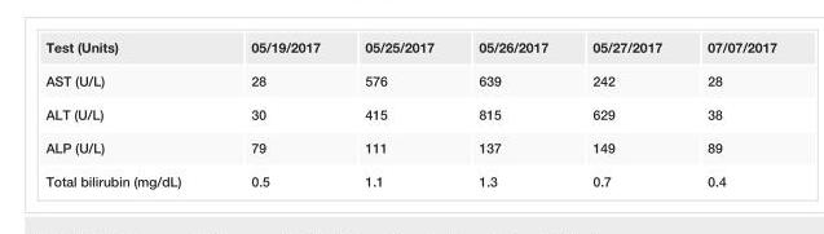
<table><tbody><tr><td>Test (Units)</td><td>05/19/2017</td><td>05/25/2017</td><td>05/26/2017</td><td>05/27/2017</td><td>07/07/2017</td></tr><tr><td>AST (U/L)</td><td>28</td><td>576</td><td>639</td><td>242</td><td>28</td></tr><tr><td>ALT (U/L)</td><td>30</td><td>415</td><td>815</td><td>629</td><td>38</td></tr><tr><td>ALP (U/L)</td><td>79</td><td>111</td><td>137</td><td>149</td><td>89</td></tr><tr><td>Total bilirubin (mg/dL)</td><td>0.5</td><td>1.1</td><td>1.3</td><td>0.7</td><td>0.4</td></tr></tbody></table>